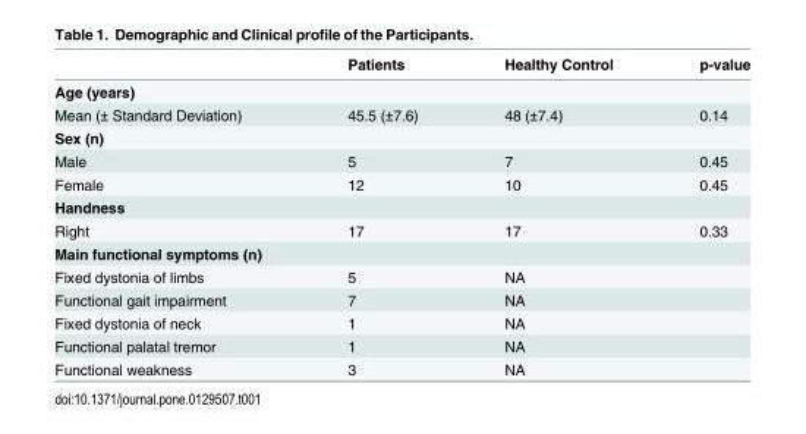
<table><thead><tr><td></td><td>Patients</td><td>Healthy Control</td><td>p-value</td></tr></thead><tbody><tr><td colspan="4">Age (years)</td></tr><tr><td>Mean (± Standard Deviation)</td><td>45.5 (±7.6)</td><td>48 (±7.4)</td><td>0.14</td></tr><tr><td colspan="4">Sex (n)</td></tr><tr><td>Male</td><td>5</td><td>7</td><td>0.45</td></tr><tr><td>Female</td><td>12</td><td>10</td><td>0.45</td></tr><tr><td colspan="4">Handness</td></tr><tr><td>Right</td><td>17</td><td>17</td><td>0.33</td></tr><tr><td colspan="4">Main functional symptoms (n)</td></tr><tr><td>Fixed dystonia of limbs</td><td>5</td><td>NA</td><td></td></tr><tr><td>Functional gait impairment</td><td>7</td><td>NA</td><td></td></tr><tr><td>Fixed dystonia of neck</td><td>1</td><td>NA</td><td></td></tr><tr><td>Functional palatal tremor</td><td>1</td><td>NA</td><td></td></tr><tr><td>Functional weakness</td><td>3</td><td>NA</td><td></td></tr></tbody></table>